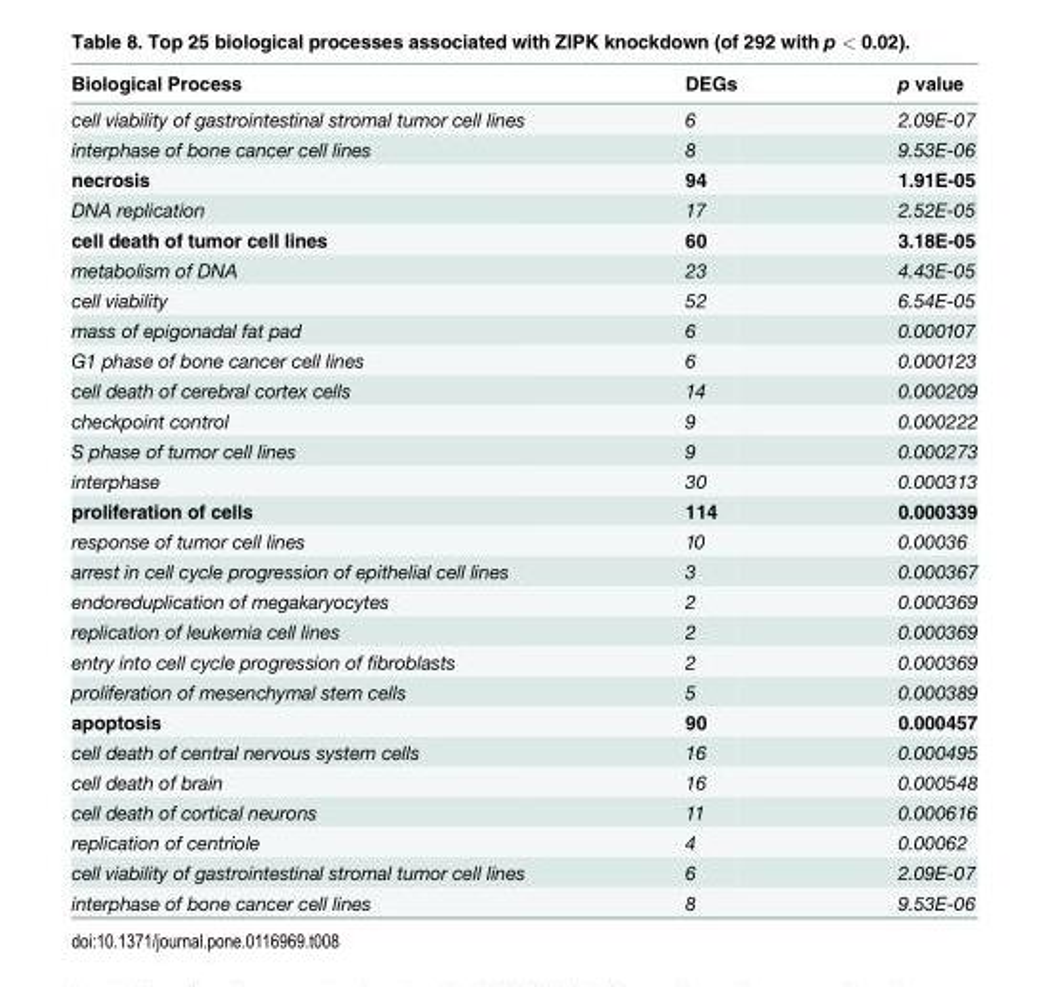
<table><thead><tr><td>Biological Process</td><td>DEGs</td><td>p value</td></tr></thead><tbody><tr><td>cell viability of gastrointestinal stromal tumor cell lines</td><td>6</td><td>2.09E-07</td></tr><tr><td>interphase of bone cancer cell lines</td><td>8</td><td>9.53E-06</td></tr><tr><td>necrosis</td><td>94</td><td>1.91E-05</td></tr><tr><td>DNA replication</td><td>17</td><td>2.52E-05</td></tr><tr><td>cell death of tumor cell lines</td><td>60</td><td>3.18E-05</td></tr><tr><td>metabolism of DNA</td><td>23</td><td>4.43E-05</td></tr><tr><td>cell viability</td><td>52</td><td>6.54E-05</td></tr><tr><td>mass of epigonadal fat pad</td><td>6</td><td>0.000107</td></tr><tr><td>G1 phase of bone cancer cell lines</td><td>6</td><td>0.000123</td></tr><tr><td>cell death of cerebral cortex cells</td><td>14</td><td>0.000209</td></tr><tr><td>checkpoint control</td><td>9</td><td>0.000222</td></tr><tr><td>S phase of tumor cell lines</td><td>9</td><td>0.000273</td></tr><tr><td>interphase</td><td>30</td><td>0.000313</td></tr><tr><td>proliferation of cells</td><td>114</td><td>0.000339</td></tr><tr><td>response of tumor cell lines</td><td>10</td><td>0.00036</td></tr><tr><td>arrest in cell cycle progression of epithelial cell lines</td><td>3</td><td>0.000367</td></tr><tr><td>endoreduplication of megakaryocytes</td><td>2</td><td>0.000369</td></tr><tr><td>replication of leukemia cell lines</td><td>2</td><td>0.000369</td></tr><tr><td>entry into cell cycle progression of fibroblasts</td><td>2</td><td>0.000369</td></tr><tr><td>proliferation of mesenchymal stem cells</td><td>5</td><td>0.000389</td></tr><tr><td>apoptosis</td><td>90</td><td>0.000457</td></tr><tr><td>cell death of central nervous system cells</td><td>16</td><td>0.000495</td></tr><tr><td>cell death of brain</td><td>16</td><td>0.000548</td></tr><tr><td>cell death of cortical neurons</td><td>11</td><td>0.000616</td></tr><tr><td>replication of centriole</td><td>4</td><td>0.00062</td></tr><tr><td>cell viability of gastrointestinal stromal tumor cell lines</td><td>6</td><td>2.09E-07</td></tr><tr><td>interphase of bone cancer cell lines</td><td>8</td><td>9.53E-06</td></tr></tbody></table>